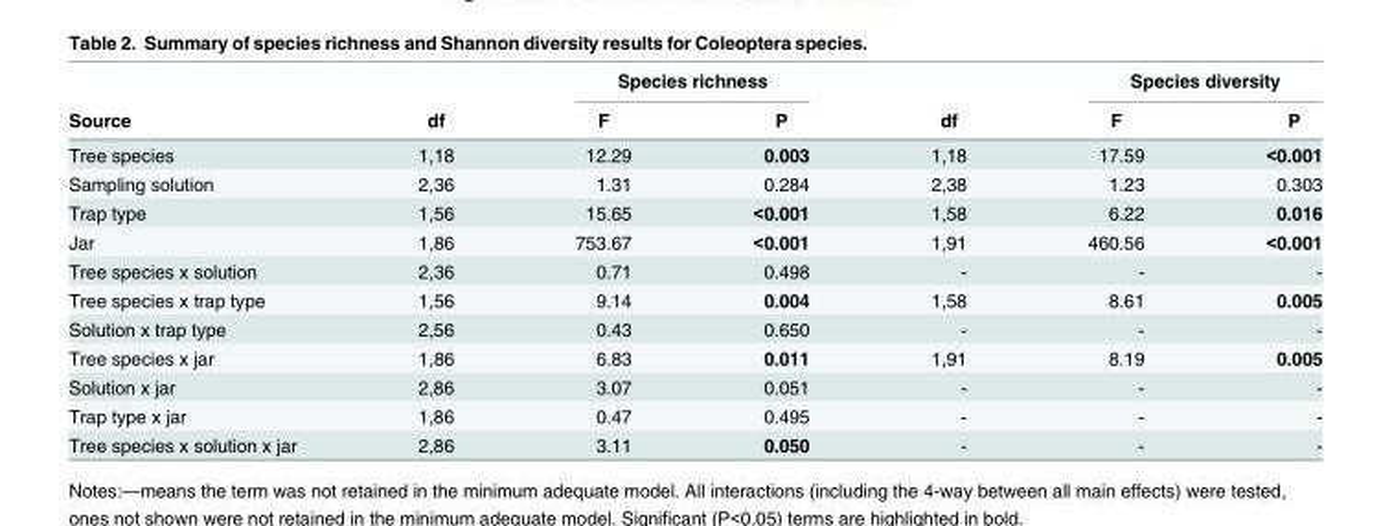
<table><thead><tr><td rowspan="2">Source</td><td rowspan="2">df</td><td colspan="2">Species richness</td><td rowspan="2">df</td><td colspan="2">Species diversity</td></tr><tr><td>F</td><td>P</td><td>F</td><td>P</td></tr></thead><tbody><tr><td>Tree species</td><td>1,18</td><td>12.29</td><td>0.003</td><td>1,18</td><td>17.59</td><td>&lt;0.001</td></tr><tr><td>Sampling solution</td><td>2,36</td><td>1.31</td><td>0.284</td><td>2,38</td><td>1.23</td><td>0.303</td></tr><tr><td>Trap type</td><td>1,56</td><td>15.65</td><td>&lt;0.001</td><td>1,58</td><td>6.22</td><td>0.016</td></tr><tr><td>Jar</td><td>1,86</td><td>753.67</td><td>&lt;0.001</td><td>1,91</td><td>460.56</td><td>&lt;0.001</td></tr><tr><td>Tree species x solution</td><td>2,36</td><td>0.71</td><td>0.498</td><td>-</td><td>-</td><td>-</td></tr><tr><td>Tree species x trap type</td><td>1,56</td><td>9.14</td><td>0.004</td><td>1,58</td><td>8.61</td><td>0.005</td></tr><tr><td>Solution x trap type</td><td>2,56</td><td>0.43</td><td>0.650</td><td>-</td><td>-</td><td>-</td></tr><tr><td>Tree species x jar</td><td>1,86</td><td>6.83</td><td>0.011</td><td>1,91</td><td>8.19</td><td>0.005</td></tr><tr><td>Solution x jar</td><td>2,86</td><td>3.07</td><td>0.051</td><td>-</td><td>-</td><td>-</td></tr><tr><td>Trap type x jar</td><td>1,86</td><td>0.47</td><td>0.495</td><td>-</td><td>-</td><td>-</td></tr><tr><td>Tree species x solution x jar</td><td>2,86</td><td>3.11</td><td>0.050</td><td>-</td><td>-</td><td>-</td></tr></tbody></table>